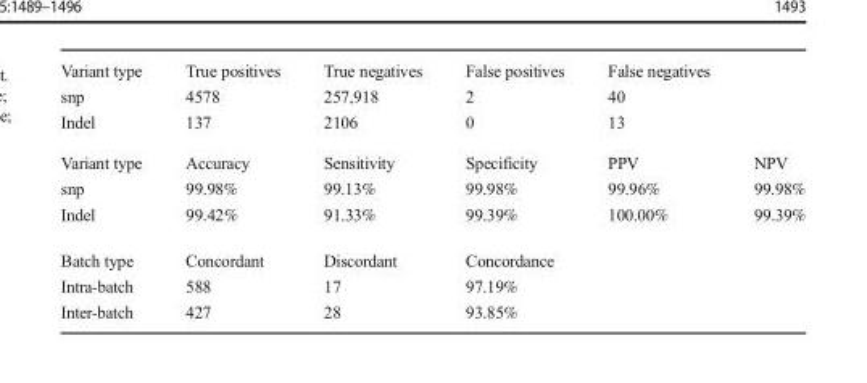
<table><tbody><tr><td>Variant type</td><td>True positives</td><td>True negatives</td><td>False positives</td><td>False negatives</td><td></td></tr><tr><td>snp</td><td>4578</td><td>257,918</td><td>2</td><td>40</td><td></td></tr><tr><td>Indel</td><td>137</td><td>2106</td><td>0</td><td>13</td><td></td></tr><tr><td>Variant type</td><td>Accuracy</td><td>Sensitivity</td><td>Specificity</td><td>PPV</td><td>NPV</td></tr><tr><td>snp</td><td>99.98%</td><td>99.13%</td><td>99.98%</td><td>99.96%</td><td>99.98%</td></tr><tr><td>Indel</td><td>99.42%</td><td>91.33%</td><td>99.39%</td><td>100.00%</td><td>99.39%</td></tr><tr><td>Batch type</td><td>Concordant</td><td>Discordant</td><td>Concordance</td><td></td><td></td></tr><tr><td>Intra-batch</td><td>588</td><td>17</td><td>97.19%</td><td></td><td></td></tr><tr><td>Inter-batch</td><td>427</td><td>28</td><td>93.85%</td><td></td><td></td></tr></tbody></table>